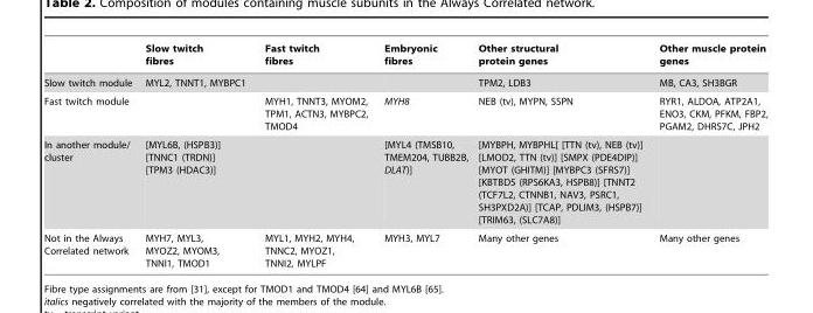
<table><thead><tr><td></td><td>Slow twitch fibres</td><td>Fast twitch fibres</td><td>Embryonic fibres</td><td>Other structural protein genes</td><td>Other muscle protein genes</td></tr></thead><tbody><tr><td>Slow twitch module</td><td>MYL2, TNNT1, MYBPC1</td><td></td><td></td><td>TPM2, LDB3</td><td>MB, CA3, SH3BGR</td></tr><tr><td>Fast twitch module</td><td></td><td>MYH1, TNNT3, MYOM2, TPM1, ACTN3, MYBPC2, TMOD4</td><td>MYH8</td><td>NEB (tv), MYPN, SSPN</td><td>RYR1, ALDOA, ATP2A1, ENO3, CKM, PFKM, FBP2, PGAM2, DHRS7C, JPH2</td></tr><tr><td>In another module/ cluster</td><td>[MYL6B, (HSPB3)] [TNNC1 (TRDN)] [TPM3 (HDAC3)]</td><td></td><td>[MYL4 (TMSB10, TMEM204, TUBB2B, DLAT)]</td><td>[MYBPH, MYBPHL[ [TTN (tv), NEB (tv)] [LMOD2, TTN (tv)] [SMPX (PDE4DIP)] [MYOT (GHITM)] [MYBPC3 (SFRS7)] [KBTBD5 (RPS6KA3, HSPB8)] [TNNT2 (TCF7L2, CTNNB1, NAV3, PSRC1, SH3PXD2A)] [TCAP, PDLIM3, (HSPB7)] [TRIM63, (SLC7A8)]</td><td></td></tr><tr><td>Not in the Always Correlated network</td><td>MYH7, MYL3, MYOZ2, MYOM3, TNNI1, TMOD1</td><td>MYL1, MYH2, MYH4, TNNC2, MYOZ1, TNNI2, MYLPF</td><td>MYH3, MYL7</td><td>Many other genes</td><td>Many other genes</td></tr></tbody></table>